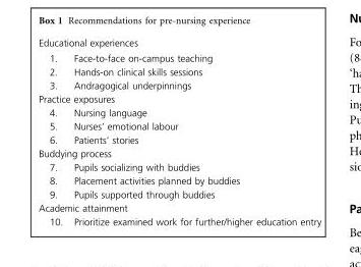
<table><tbody><tr><td colspan="2">Educational experiences</td></tr><tr><td>1.</td><td>Face-to-face on-campus teaching</td></tr><tr><td>2.</td><td>Hands-on clinical skills sessions</td></tr><tr><td>3.</td><td>Andragogical underpinnings</td></tr><tr><td colspan="2">Practice exposures</td></tr><tr><td>4.</td><td>Nursing language</td></tr><tr><td>5.</td><td>Nurses’ emotional labour</td></tr><tr><td>6.</td><td>Patients’ stories</td></tr><tr><td colspan="2">Buddying process</td></tr><tr><td>7.</td><td>Pupils socializing with buddies</td></tr><tr><td>8.</td><td>Placement activities planned by buddies</td></tr><tr><td>9.</td><td>Pupils supported through buddies</td></tr><tr><td colspan="2">Academic attainment</td></tr><tr><td>10.</td><td>Prioritize examined work for further/higher education entry</td></tr></tbody></table>